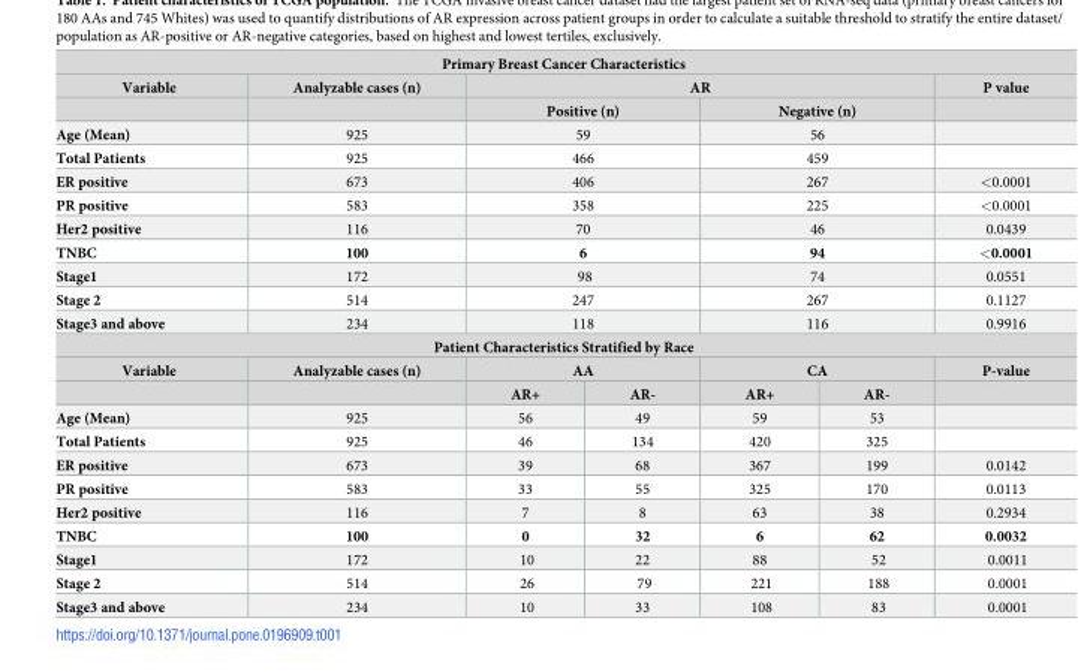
<table><tbody><tr><td colspan="7">Primary Breast Cancer Characteristics</td></tr><tr><td rowspan="2">Variable</td><td>Analyzable cases (n)</td><td colspan="4">AR</td><td>P value</td></tr><tr><td></td><td colspan="2">Positive (n)</td><td colspan="2">Negative (n)</td><td></td></tr><tr><td>Age (Mean)</td><td>925</td><td colspan="2">59</td><td colspan="2">56</td><td></td></tr><tr><td>Total Patients</td><td>925</td><td colspan="2">466</td><td colspan="2">459</td><td></td></tr><tr><td>ER positive</td><td>673</td><td colspan="2">406</td><td colspan="2">267</td><td>&lt;0.0001</td></tr><tr><td>PR positive</td><td>583</td><td colspan="2">358</td><td colspan="2">225</td><td>&lt;0.0001</td></tr><tr><td>Her2 positive</td><td>116</td><td colspan="2">70</td><td colspan="2">46</td><td>0.0439</td></tr><tr><td>TNBC</td><td>100</td><td colspan="2">6</td><td colspan="2">94</td><td>&lt;0.0001</td></tr><tr><td>Stage1</td><td>172</td><td colspan="2">98</td><td colspan="2">74</td><td>0.0551</td></tr><tr><td>Stage 2</td><td>514</td><td colspan="2">247</td><td colspan="2">267</td><td>0.1127</td></tr><tr><td>Stage3 and above</td><td>234</td><td colspan="2">118</td><td colspan="2">116</td><td>0.9916</td></tr><tr><td colspan="7">Patient Characteristics Stratified by Race</td></tr><tr><td rowspan="2">Variable</td><td>Analyzable cases (n)</td><td colspan="2">AA</td><td colspan="2">CA</td><td>P-value</td></tr><tr><td></td><td>AR+</td><td>AR-</td><td>AR+</td><td>AR-</td><td></td></tr><tr><td>Age (Mean)</td><td>925</td><td>56</td><td>49</td><td>59</td><td>53</td><td></td></tr><tr><td>Total Patients</td><td>925</td><td>46</td><td>134</td><td>420</td><td>325</td><td></td></tr><tr><td>ER positive</td><td>673</td><td>39</td><td>68</td><td>367</td><td>199</td><td>0.0142</td></tr><tr><td>PR positive</td><td>583</td><td>33</td><td>55</td><td>325</td><td>170</td><td>0.0113</td></tr><tr><td>Her2 positive</td><td>116</td><td>7</td><td>8</td><td>63</td><td>38</td><td>0.2934</td></tr><tr><td>TNBC</td><td>100</td><td>0</td><td>32</td><td>6</td><td>62</td><td>0.0032</td></tr><tr><td>Stage1</td><td>172</td><td>10</td><td>22</td><td>88</td><td>52</td><td>0.0011</td></tr><tr><td>Stage 2</td><td>514</td><td>26</td><td>79</td><td>221</td><td>188</td><td>0.0001</td></tr><tr><td>Stage3 and above</td><td>234</td><td>10</td><td>33</td><td>108</td><td>83</td><td>0.0001</td></tr></tbody></table>